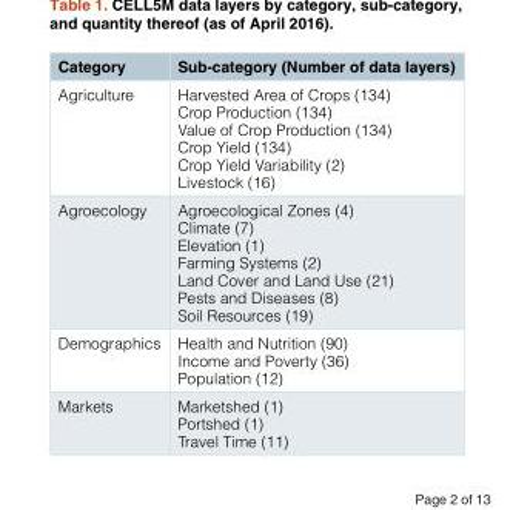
<table><thead><tr><td>Category</td><td>Sub-category (Number of data layers)</td></tr></thead><tbody><tr><td>Agriculture</td><td>Harvested Area of Crops (134) Crop Production (134) Value of Crop Production (134) Crop Yield (134) Crop Yield Variability (2) Livestock (16)</td></tr><tr><td>Agroecology</td><td>Agroecological Zones (4) Climate (7) Elevation (1) Farming Systems (2) Land Cover and Land Use (21) Pests and Diseases (8) Soil Resources (19)</td></tr><tr><td>Demographics</td><td>Health and Nutrition (90) Income and Poverty (36) Population (12)</td></tr><tr><td>Markets</td><td>Marketshed (1) Portshed (1) Travel Time (11)</td></tr></tbody></table>